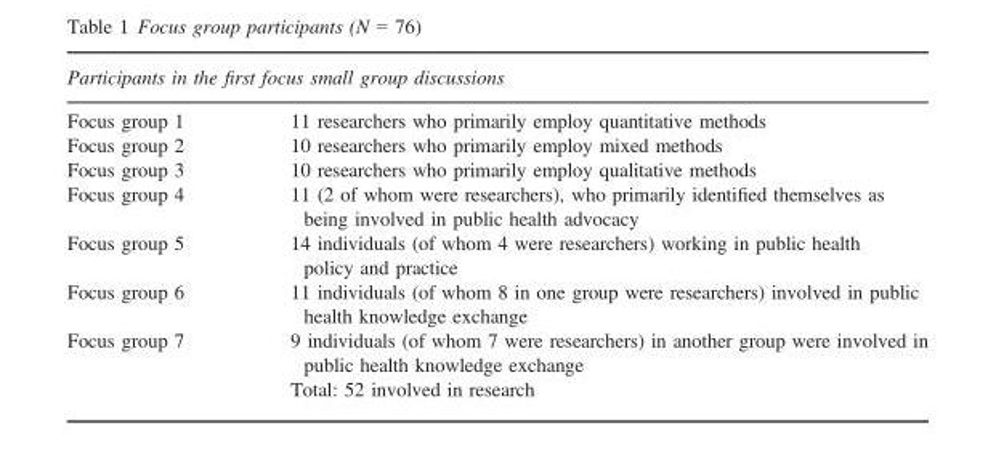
<table><thead><tr><td colspan="2">Participants in the first focus small group discussions</td></tr><tr><td>Focus group 1</td><td>11 researchers who primarily employ quantitative methods</td></tr></thead><tbody><tr><td>Focus group 2</td><td>10 researchers who primarily employ mixed methods</td></tr><tr><td>Focus group 3</td><td>10 researchers who primarily employ qualitative methods</td></tr><tr><td>Focus group 4</td><td>11 (2 of whom were researchers), who primarily identified themselves as being involved in public health advocacy</td></tr><tr><td>Focus group 5</td><td>14 individuals (of whom 4 were researchers) working in public health policy and practice</td></tr><tr><td>Focus group 6</td><td>11 individuals (of whom 8 in one group were researchers) involved in public health knowledge exchange</td></tr><tr><td rowspan="2">Focus group 7</td><td>9 individuals (of whom 7 were researchers) in another group were involved in public health knowledge exchange</td></tr><tr><td>Total: 52 involved in research</td></tr></tbody></table>